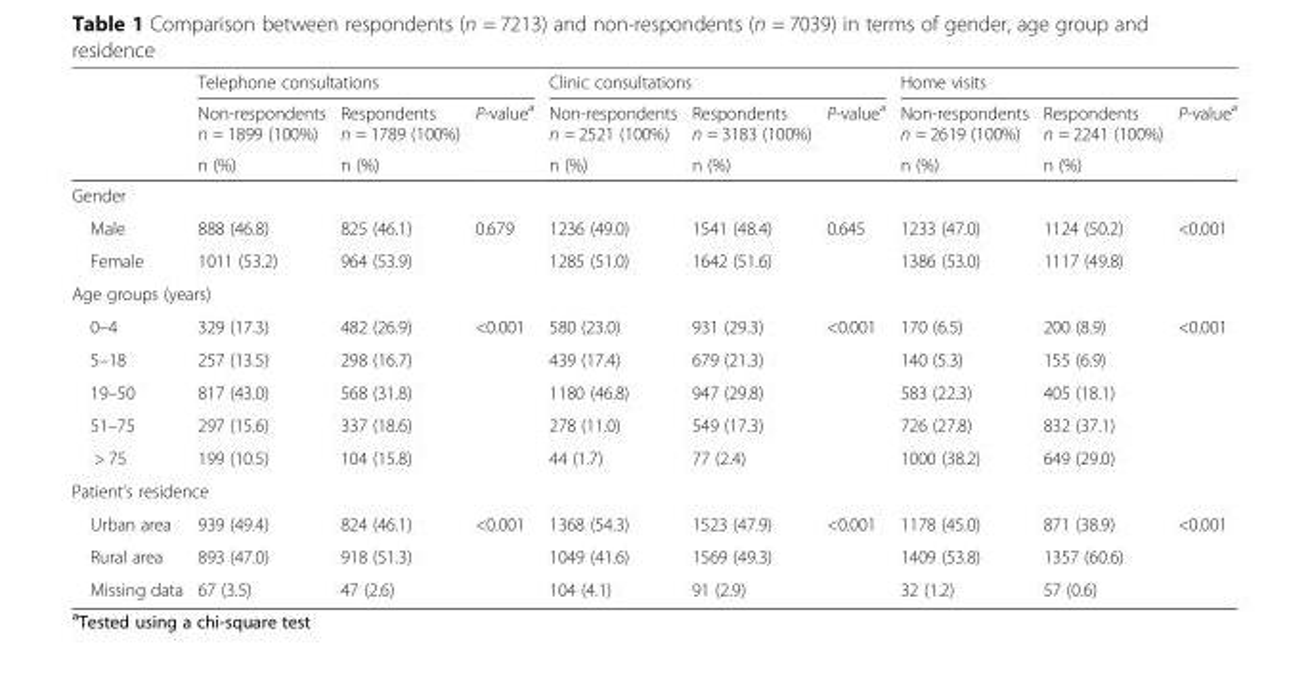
<table><thead><tr><td rowspan="3"></td><td colspan="3">Telephone consultations</td><td colspan="3">Clinic consultations</td><td colspan="3">Home visits</td></tr><tr><td rowspan="2">Non-respondents n = 1899 (100%) n (%)</td><td rowspan="2">Respondents n = 1789 (100%) n (%)</td><td rowspan="2">P-value<sup>a</sup></td><td rowspan="2">Non-respondents n = 2521 (100%) n (%)</td><td rowspan="2">Respondents n = 3183 (100%) n (%)</td><td rowspan="2">P-value<sup>a</sup></td><td rowspan="2">Non-respondents n = 2619 (100%) n (%)</td><td rowspan="2">Respondents n = 2241 (100%) n (%)</td><td rowspan="2">P-value<sup>a</sup></td></tr><tr></tr></thead><tbody><tr><td colspan="10">Gender</td></tr><tr><td>Male</td><td>888 (46.8)</td><td>825 (46.1)</td><td>0.679</td><td>1236 (49.0)</td><td>1541 (48.4)</td><td>0.645</td><td>1233 (47.0)</td><td>1124 (50.2)</td><td>&lt;0.001</td></tr><tr><td>Female</td><td>1011 (53.2)</td><td>964 (53.9)</td><td></td><td>1285 (51.0)</td><td>1642 (51.6)</td><td></td><td>1386 (53.0)</td><td>1117 (49.8)</td><td></td></tr><tr><td colspan="10">Age groups (years)</td></tr><tr><td>0–4</td><td>329 (17.3)</td><td>482 (26.9)</td><td>&lt;0.001</td><td>580 (23.0)</td><td>931 (29.3)</td><td>&lt;0.001</td><td>170 (6.5)</td><td>200 (8.9)</td><td>&lt;0.001</td></tr><tr><td>5–18</td><td>257 (13.5)</td><td>298 (16.7)</td><td></td><td>439 (17.4)</td><td>679 (21.3)</td><td></td><td>140 (5.3)</td><td>155 (6.9)</td><td></td></tr><tr><td>19–50</td><td>817 (43.0)</td><td>568 (31.8)</td><td></td><td>1180 (46.8)</td><td>947 (29.8)</td><td></td><td>583 (22.3)</td><td>405 (18.1)</td><td></td></tr><tr><td>51–75</td><td>297 (15.6)</td><td>337 (18.6)</td><td></td><td>278 (11.0)</td><td>549 (17.3)</td><td></td><td>726 (27.8)</td><td>832 (37.1)</td><td></td></tr><tr><td>&gt; 75</td><td>199 (10.5)</td><td>104 (15.8)</td><td></td><td>44 (1.7)</td><td>77 (2.4)</td><td></td><td>1000 (38.2)</td><td>649 (29.0)</td><td></td></tr><tr><td colspan="10">Patient’s residence</td></tr><tr><td>Urban area</td><td>939 (49.4)</td><td>824 (46.1)</td><td>&lt;0.001</td><td>1368 (54.3)</td><td>1523 (47.9)</td><td>&lt;0.001</td><td>1178 (45.0)</td><td>871 (38.9)</td><td>&lt;0.001</td></tr><tr><td>Rural area</td><td>893 (47.0)</td><td>918 (51.3)</td><td></td><td>1049 (41.6)</td><td>1569 (49.3)</td><td></td><td>1409 (53.8)</td><td>1357 (60.6)</td><td></td></tr><tr><td>Missing data</td><td>67 (3.5)</td><td>47 (2.6)</td><td></td><td>104 (4.1)</td><td>91 (2.9)</td><td></td><td>32 (1.2)</td><td>57 (0.6)</td><td></td></tr></tbody></table>